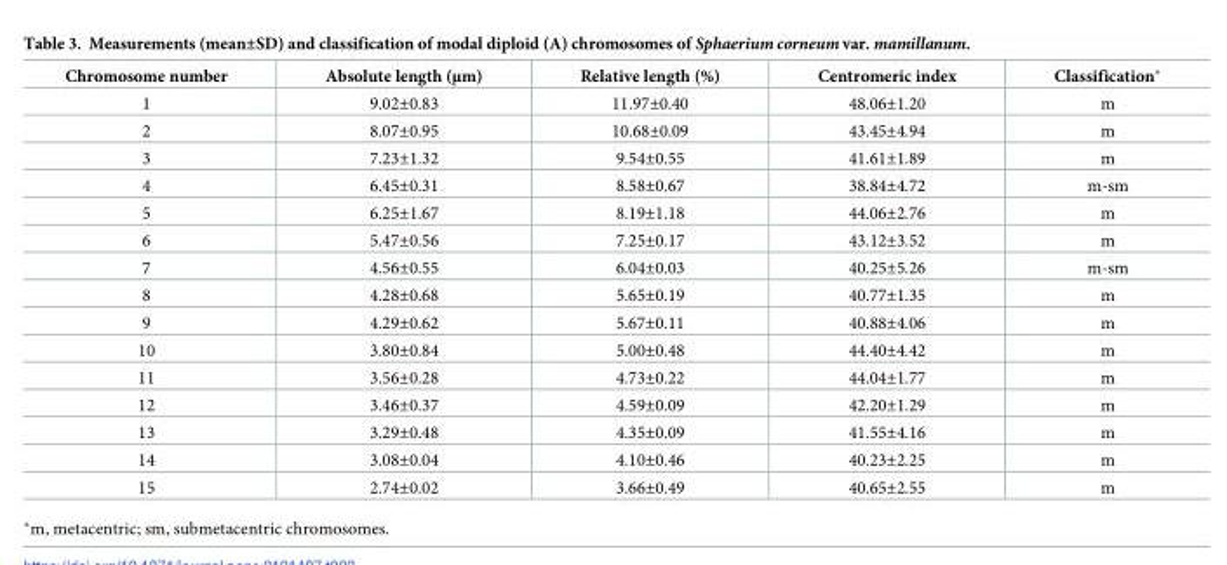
<table><thead><tr><td>Chromosome number</td><td>Absolute length (μm)</td><td>Relative length (%)</td><td>Centromeric index</td><td>Classification*</td></tr></thead><tbody><tr><td>1</td><td>9.02±0.83</td><td>11.97±0.40</td><td>48.06±1.20</td><td>m</td></tr><tr><td>2</td><td>8.07±0.95</td><td>10.68±0.09</td><td>43.45±4.94</td><td>m</td></tr><tr><td>3</td><td>7.23±1.32</td><td>9.54±0.55</td><td>41.61±1.89</td><td>m</td></tr><tr><td>4</td><td>6.45±0.31</td><td>8.58±0.67</td><td>38.84±4.72</td><td>m-sm</td></tr><tr><td>5</td><td>6.25±1.67</td><td>8.19±1.18</td><td>44.06±2.76</td><td>m</td></tr><tr><td>6</td><td>5.47±0.56</td><td>7.25±0.17</td><td>43.12±3.52</td><td>m</td></tr><tr><td>7</td><td>4.56±0.55</td><td>6.04±0.03</td><td>40.25±5.26</td><td>m-sm</td></tr><tr><td>8</td><td>4.28±0.68</td><td>5.65±0.19</td><td>40.77±1.35</td><td>m</td></tr><tr><td>9</td><td>4.29±0.62</td><td>5.67±0.11</td><td>40.88±4.06</td><td>m</td></tr><tr><td>10</td><td>3.80±0.84</td><td>5.00±0.48</td><td>44.40±4.42</td><td>m</td></tr><tr><td>11</td><td>3.56±0.28</td><td>4.73±0.22</td><td>44.04±1.77</td><td>m</td></tr><tr><td>12</td><td>3.46±0.37</td><td>4.59±0.09</td><td>42.20±1.29</td><td>m</td></tr><tr><td>13</td><td>3.29±0.48</td><td>4.35±0.09</td><td>41.55±4.16</td><td>m</td></tr><tr><td>14</td><td>3.08±0.04</td><td>4.10±0.46</td><td>40.23±2.25</td><td>m</td></tr><tr><td>15</td><td>2.74±0.02</td><td>3.66±0.49</td><td>40.65±2.55</td><td>m</td></tr></tbody></table>